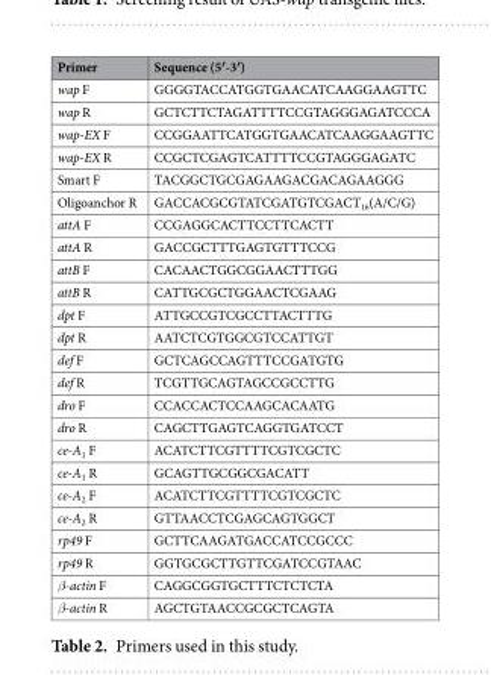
<table><thead><tr><td>Primer</td><td>Sequence (5′-3′)</td></tr></thead><tbody><tr><td>wap F</td><td>GGGGTACCATGGTGAACATCAAGGAAGTTC</td></tr><tr><td>wap R</td><td>GCTCTTCTAGATTTTCCGTAGGGAGATCCCA</td></tr><tr><td>wap-EX F</td><td>CCGGAATTCATGGTGAACATCAAGGAAGTTC</td></tr><tr><td>wap-EX R</td><td>CCGCTCGAGTCATTTTCCGTAGGGAGATC</td></tr><tr><td>Smart F</td><td>TACGGCTGCGAGAAGACGACAGAAGGG</td></tr><tr><td>Oligoanchor R</td><td>GACCACGCGTATCGATGTCGACT<sub>16</sub>(A/C/G)</td></tr><tr><td>attA F</td><td>CCGAGGCACTTCCTTCACTT</td></tr><tr><td>attA R</td><td>GACCGCTTTGAGTGTTTCCG</td></tr><tr><td>attB F</td><td>CACAACTGGCGGAACTTTGG</td></tr><tr><td>attB R</td><td>CATTGCGCTGGAACTCGAAG</td></tr><tr><td>dpt F</td><td>ATTGCCGTCGCCTTACTTTG</td></tr><tr><td>dpt R</td><td>AATCTCGTGGCGTCCATTGT</td></tr><tr><td>def F</td><td>GCTCAGCCAGTTTCCGATGTG</td></tr><tr><td>def R</td><td>TCGTTGCAGTAGCCGCCTTG</td></tr><tr><td>dro F</td><td>CCACCACTCCAAGCACAATG</td></tr><tr><td>dro R</td><td>CAGCTTGAGTCAGGTGATCCT</td></tr><tr><td>ce-A<sub>1</sub> F</td><td>ACATCTTCGTTTTCGTCGCTC</td></tr><tr><td>ce-A<sub>1</sub> R</td><td>GCAGTTGCGGCGACATT</td></tr><tr><td>ce-A<sub>2</sub> F</td><td>ACATCTTCGTTTTCGTCGCTC</td></tr><tr><td>ce-A<sub>2</sub> R</td><td>GTTAACCTCGAGCAGTGGCT</td></tr><tr><td>rp49 F</td><td>GCTTCAAGATGACCATCCGCCC</td></tr><tr><td>rp49 R</td><td>GGTGCGCTTGTTCGATCCGTAAC</td></tr><tr><td>β-actin F</td><td>CAGGCGGTGCTTTCTCTCTA</td></tr><tr><td>β-actin R</td><td>AGCTGTAACCGCGCTCAGTA</td></tr></tbody></table>